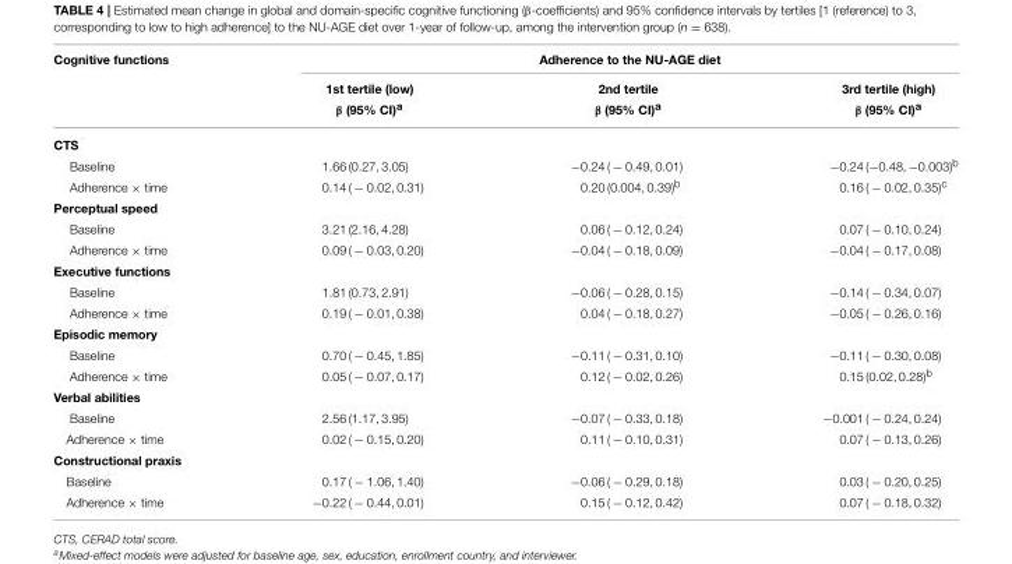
<table><thead><tr><td rowspan="2">Cognitive functions</td><td colspan="3">Adherence to the NU-AGE diet</td></tr><tr><td>1st tertile (low) β (95% CI)<sup>a</sup></td><td>2nd tertile β (95% CI)<sup>a</sup></td><td>3rd tertile (high) β (95% CI)<sup>a</sup></td></tr></thead><tbody><tr><td colspan="4">CTS</td></tr><tr><td>Baseline</td><td>1.66 (0.27, 3.05)</td><td>−0.24 ( − 0.49, 0.01)</td><td>−0.24 (−0.48, −0.003)<sup>b</sup></td></tr><tr><td>Adherence × time</td><td>0.14 ( − 0.02, 0.31)</td><td>0.20 (0.004, 0.39)<sup>b</sup></td><td>0.16 ( − 0.02, 0.35)<sup>c</sup></td></tr><tr><td colspan="4">Perceptual speed</td></tr><tr><td>Baseline</td><td>3.21 (2.16, 4.28)</td><td>0.06 ( − 0.12, 0.24)</td><td>0.07 ( − 0.10, 0.24)</td></tr><tr><td>Adherence × time</td><td>0.09 ( − 0.03, 0.20)</td><td>−0.04 ( − 0.18, 0.09)</td><td>−0.04 ( − 0.17, 0.08)</td></tr><tr><td colspan="4">Executive functions</td></tr><tr><td>Baseline</td><td>1.81 (0.73, 2.91)</td><td>−0.06 ( − 0.28, 0.15)</td><td>−0.14 ( − 0.34, 0.07)</td></tr><tr><td>Adherence × time</td><td>0.19 ( − 0.01, 0.38)</td><td>0.04 ( − 0.18, 0.27)</td><td>−0.05 ( − 0.26, 0.16)</td></tr><tr><td colspan="4">Episodic memory</td></tr><tr><td>Baseline</td><td>0.70 ( − 0.45, 1.85)</td><td>−0.11 ( − 0.31, 0.10)</td><td>−0.11 ( − 0.30, 0.08)</td></tr><tr><td>Adherence × time</td><td>0.05 ( − 0.07, 0.17)</td><td>0.12 ( − 0.02, 0.26)</td><td>0.15 (0.02, 0.28)<sup>b</sup></td></tr><tr><td colspan="4">Verbal abilities</td></tr><tr><td>Baseline</td><td>2.56 (1.17, 3.95)</td><td>−0.07 ( − 0.33, 0.18)</td><td>−0.001 ( − 0.24, 0.24)</td></tr><tr><td>Adherence × time</td><td>0.02 ( − 0.15, 0.20)</td><td>0.11 ( − 0.10, 0.31)</td><td>0.07 ( − 0.13, 0.26)</td></tr><tr><td colspan="4">Constructional praxis</td></tr><tr><td>Baseline</td><td>0.17 ( − 1.06, 1.40)</td><td>−0.06 ( − 0.29, 0.18)</td><td>0.03 ( − 0.20, 0.25)</td></tr><tr><td>Adherence × time</td><td>−0.22 ( − 0.44, 0.01)</td><td>0.15 ( − 0.12, 0.42)</td><td>0.07 ( − 0.18, 0.32)</td></tr></tbody></table>